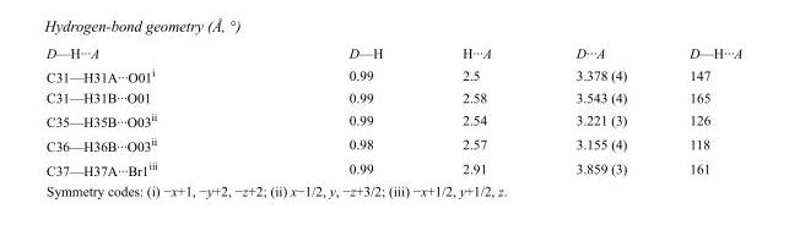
<table><tbody><tr><td>D—H···A</td><td>D—H</td><td>H···A</td><td>D···A</td><td>D—H···A</td></tr><tr><td>C31—H31A···O01<sup>i</sup></td><td>0.99</td><td>2.5</td><td>3.378 (4)</td><td>147</td></tr><tr><td>C31—H31B···O01</td><td>0.99</td><td>2.58</td><td>3.543 (4)</td><td>165</td></tr><tr><td>C35—H35B···O03<sup>ii</sup></td><td>0.99</td><td>2.54</td><td>3.221 (3)</td><td>126</td></tr><tr><td>C36—H36B···O03<sup>ii</sup></td><td>0.98</td><td>2.57</td><td>3.155 (4)</td><td>118</td></tr><tr><td>C37—H37A···Br1<sup>iii</sup></td><td>0.99</td><td>2.91</td><td>3.859 (3)</td><td>161</td></tr></tbody></table>